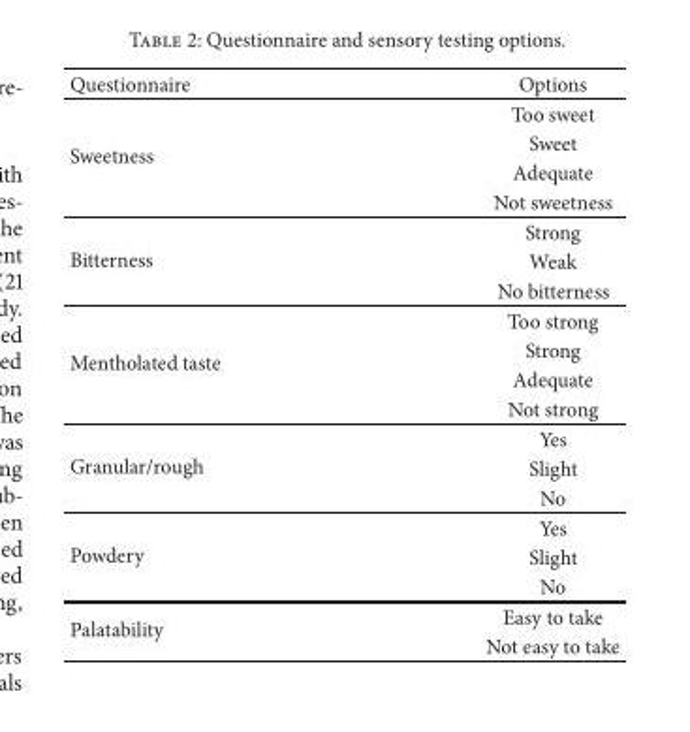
<table><thead><tr><td>Questionnaire</td><td>Options</td></tr></thead><tbody><tr><td rowspan="4">Sweetness</td><td>Too sweet</td></tr><tr><td>Sweet</td></tr><tr><td>Adequate</td></tr><tr><td>Not sweetness</td></tr><tr><td rowspan="3">Bitterness</td><td>Strong</td></tr><tr><td>Weak</td></tr><tr><td>No bitterness</td></tr><tr><td rowspan="4">Mentholated taste</td><td>Too strong</td></tr><tr><td>Strong</td></tr><tr><td>Adequate</td></tr><tr><td>Not strong</td></tr><tr><td rowspan="3">Granular/rough</td><td>Yes</td></tr><tr><td>Slight</td></tr><tr><td>No</td></tr><tr><td rowspan="3">Powdery</td><td>Yes</td></tr><tr><td>Slight</td></tr><tr><td>No</td></tr><tr><td rowspan="2">Palatability</td><td>Easy to take</td></tr><tr><td>Not easy to take</td></tr></tbody></table>